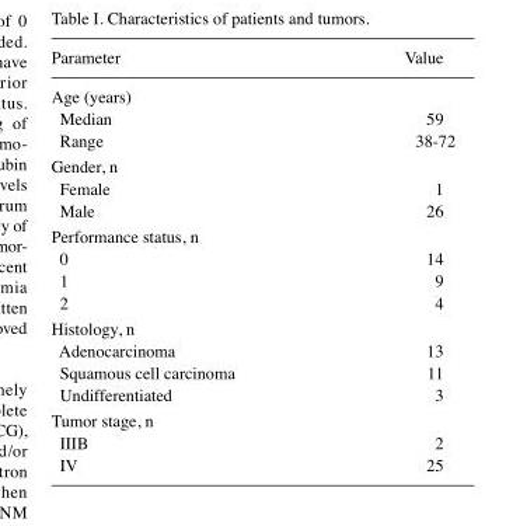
<table><thead><tr><td>Parameter</td><td>Value</td></tr></thead><tbody><tr><td colspan="2">Age (years)</td></tr><tr><td>Median</td><td>59</td></tr><tr><td>Range</td><td>38-72</td></tr><tr><td colspan="2">Gender, n</td></tr><tr><td>Female</td><td>1</td></tr><tr><td>Male</td><td>26</td></tr><tr><td colspan="2">Performance status, n</td></tr><tr><td>0</td><td>14</td></tr><tr><td>1</td><td>9</td></tr><tr><td>2</td><td>4</td></tr><tr><td colspan="2">Histology, n</td></tr><tr><td>Adenocarcinoma</td><td>13</td></tr><tr><td>Squamous cell carcinoma</td><td>11</td></tr><tr><td>Undifferentiated</td><td>3</td></tr><tr><td colspan="2">Tumor stage, n</td></tr><tr><td>IIIB</td><td>2</td></tr><tr><td>IV</td><td>25</td></tr></tbody></table>